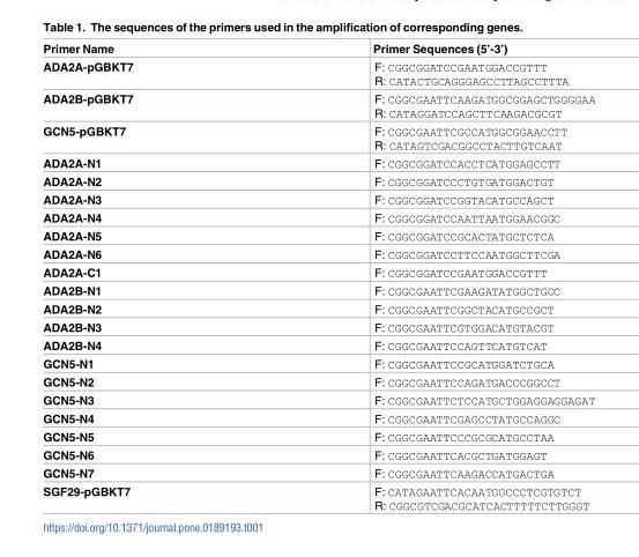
<table><thead><tr><td>Primer Name</td><td>Primer Sequences (5’-3’)</td></tr></thead><tbody><tr><td>ADA2A-pGBKT7</td><td>F: CGGCGGATCCGAATGGACCGTTT R: CATACTGCAGGGAGCCTTAGCCTTTA</td></tr><tr><td>ADA2B-pGBKT7</td><td>F: CGGCGAATTCAAGATGGCGGAGCTGGGGAA R: CATAGGATCCAGCTTCAAGACGCGT</td></tr><tr><td>GCN5-pGBKT7</td><td>F: CGGCGAATTCGCCATGGCGGAACCTT R: CATAGTCGACGGCCTACTTGTCAAT</td></tr><tr><td>ADA2A-N1</td><td>F: CGGCGGATCCACCTCATGGAGCCTT</td></tr><tr><td>ADA2A-N2</td><td>F: CGGCGGATCCCTGTGATGGACTGT</td></tr><tr><td>ADA2A-N3</td><td>F: CGGCGGATCCGGTACATGCCAGCT</td></tr><tr><td>ADA2A-N4</td><td>F: CGGCGGATCCAATTAATGGAACGGC</td></tr><tr><td>ADA2A-N5</td><td>F: CGGCGGATCCGCACTATGCTCTCA</td></tr><tr><td>ADA2A-N6</td><td>F: CGGCGGATCCTTCCAATGGCTTCGA</td></tr><tr><td>ADA2A-C1</td><td>F: CGGCGGATCCGAATGGACCGTTT</td></tr><tr><td>ADA2B-N1</td><td>F: CGGCGAATTCGAAGATATGGCTGCC</td></tr><tr><td>ADA2B-N2</td><td>F: CGGCGAATTCGGCTACATGCCGCT</td></tr><tr><td>ADA2B-N3</td><td>F: CGGCGAATTCGTGGACATGTACGT</td></tr><tr><td>ADA2B-N4</td><td>F: CGGCGAATTCCAGTTCATGTCAT</td></tr><tr><td>GCN5-N1</td><td>F: CGGCGAATTCCGCATGGATCTGCA</td></tr><tr><td>GCN5-N2</td><td>F: CGGCGAATTCCAGATGACCCGGCCT</td></tr><tr><td>GCN5-N3</td><td>F: CGGCGAATTCTCCATGCTGGAGGAGGAGAT</td></tr><tr><td>GCN5-N4</td><td>F: CGGCGAATTCGAGCCTATGCCAGGC</td></tr><tr><td>GCN5-N5</td><td>F: CGGCGAATTCCCGCGCATGCCTAA</td></tr><tr><td>GCN5-N6</td><td>F: CGGCGAATTCACGCTGATGGAGT</td></tr><tr><td>GCN5-N7</td><td>F: CGGCGAATTCAAGACCATGACTGA</td></tr><tr><td>SGF29-pGBKT7</td><td>F: CATAGAATTCACAATGGCCCTCGTGTCT R: CGGCGTCGACGCATCACTTTTTCTTGGGT</td></tr></tbody></table>